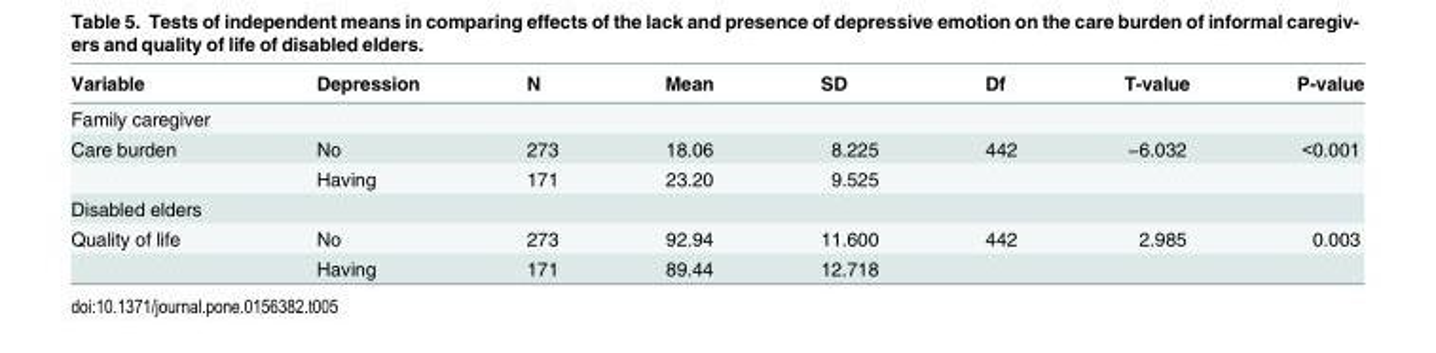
<table><thead><tr><td>Variable</td><td>Depression</td><td>N</td><td>Mean</td><td>SD</td><td>Df</td><td>T-value</td><td>P-value</td></tr></thead><tbody><tr><td colspan="8">Family caregiver</td></tr><tr><td rowspan="2">Care burden</td><td>No</td><td>273</td><td>18.06</td><td>8.225</td><td>442</td><td>−6.032</td><td>&lt;0.001</td></tr><tr><td>Having</td><td>171</td><td>23.20</td><td>9.525</td><td></td><td></td><td></td></tr><tr><td colspan="8">Disabled elders</td></tr><tr><td rowspan="2">Quality of life</td><td>No</td><td>273</td><td>92.94</td><td>11.600</td><td>442</td><td>2.985</td><td>0.003</td></tr><tr><td>Having</td><td>171</td><td>89.44</td><td>12.718</td><td></td><td></td><td></td></tr></tbody></table>